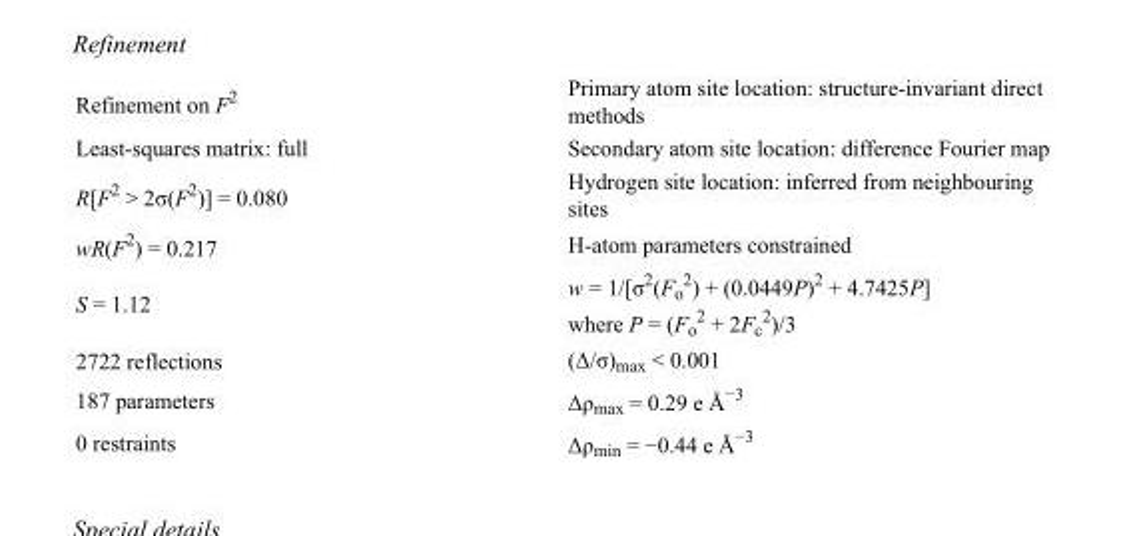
<table><tbody><tr><td>Refinement on F<sup>2</sup></td><td>Primary atom site location: structure-invariant direct methods</td></tr><tr><td>Least-squares matrix: full</td><td>Secondary atom site location: difference Fourier map</td></tr><tr><td>R[F<sup>2</sup> &gt; 2σ(F<sup>2</sup>)] = 0.080</td><td>Hydrogen site location: inferred from neighbouring sites</td></tr><tr><td>wR(F<sup>2</sup>) = 0.217</td><td>H-atom parameters constrained</td></tr><tr><td>S = 1.12</td><td>w = 1/[σ<sup>2</sup>(F<sub>o</sub> <sup>2</sup>) + (0.0449P)<sup>2</sup> + 4.7425P] where P = (F<sub>o</sub> <sup>2</sup> + 2F<sub>c</sub> <sup>2</sup>)/3</td></tr><tr><td>2722 reflections</td><td>(Δ/σ)<sub>max</sub> &lt; 0.001</td></tr><tr><td>187 parameters</td><td>Δρ<sub>max</sub> = 0.29 e Å<sup>−3</sup></td></tr><tr><td>0 restraints</td><td>Δρ<sub>min</sub> = −0.44 e Å<sup>−3</sup></td></tr></tbody></table>